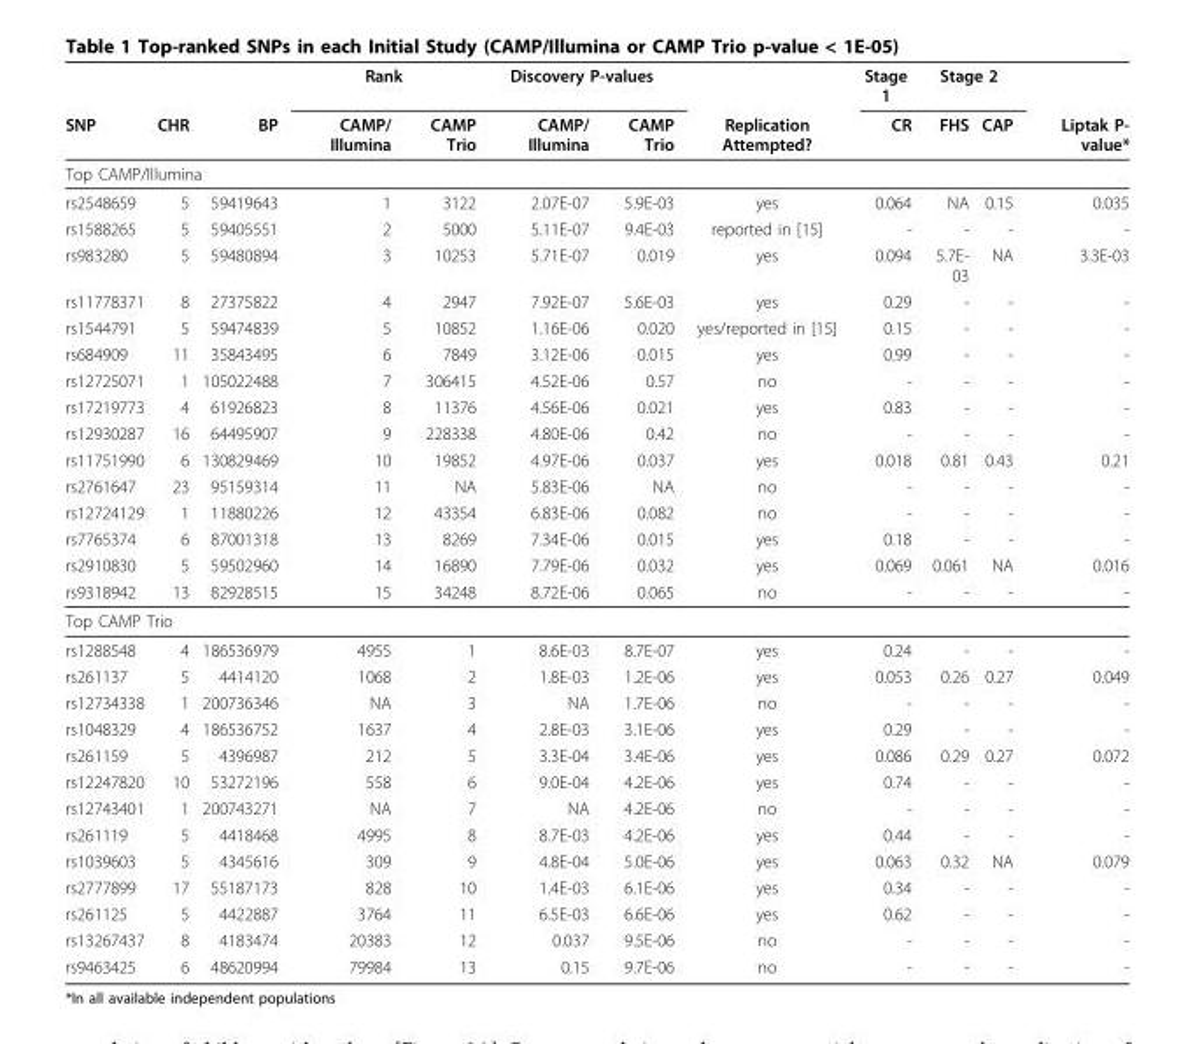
<table><thead><tr><td rowspan="2">SNP</td><td rowspan="2">CHR</td><td rowspan="2">BP</td><td colspan="2">Rank</td><td colspan="2">Discovery P-values</td><td rowspan="2">Replication Attempted?</td><td rowspan="2">Stage 1 CR</td><td colspan="2">Stage 2</td><td rowspan="2">Liptak P- value*</td></tr><tr><td>CAMP/ Illumina</td><td>CAMP Trio</td><td>CAMP/ Illumina</td><td>CAMP Trio</td><td>FHS</td><td>CAP</td></tr></thead><tbody><tr><td colspan="12">Top CAMP/Illumina</td></tr><tr><td>rs2548659</td><td>5</td><td>59419643</td><td>1</td><td>3122</td><td>2.07E-07</td><td>5.9E-03</td><td>yes</td><td>0.064</td><td>NA</td><td>0.15</td><td>0.035</td></tr><tr><td>rs1588265</td><td>5</td><td>59405551</td><td>2</td><td>5000</td><td>5.11E-07</td><td>9.4E-03</td><td>reported in [15]</td><td>-</td><td>-</td><td>-</td><td>-</td></tr><tr><td>rs983280</td><td>5</td><td>59480894</td><td>3</td><td>10253</td><td>5.71E-07</td><td>0.019</td><td>yes</td><td>0.094</td><td>5.7E- 03</td><td>NA</td><td>3.3E-03</td></tr><tr><td>rs11778371</td><td>8</td><td>27375822</td><td>4</td><td>2947</td><td>7.92E-07</td><td>5.6E-03</td><td>yes</td><td>0.29</td><td>-</td><td>-</td><td>-</td></tr><tr><td>rs1544791</td><td>5</td><td>59474839</td><td>5</td><td>10852</td><td>1.16E-06</td><td>0.020</td><td>yes/reported in [15]</td><td>0.15</td><td>-</td><td>-</td><td>-</td></tr><tr><td>rs684909</td><td>11</td><td>35843495</td><td>6</td><td>7849</td><td>3.12E-06</td><td>0.015</td><td>yes</td><td>0.99</td><td>-</td><td>-</td><td>-</td></tr><tr><td>rs12725071</td><td>1</td><td>105022488</td><td>7</td><td>306415</td><td>4.52E-06</td><td>0.57</td><td>no</td><td>-</td><td>-</td><td>-</td><td>-</td></tr><tr><td>rs17219773</td><td>4</td><td>61926823</td><td>8</td><td>11376</td><td>4.56E-06</td><td>0.021</td><td>yes</td><td>0.83</td><td>-</td><td>-</td><td>-</td></tr><tr><td>rs12930287</td><td>16</td><td>64495907</td><td>9</td><td>228338</td><td>4.80E-06</td><td>0.42</td><td>no</td><td>-</td><td>-</td><td>-</td><td>-</td></tr><tr><td>rs11751990</td><td>6</td><td>130829469</td><td>10</td><td>19852</td><td>4.97E-06</td><td>0.037</td><td>yes</td><td>0.018</td><td>0.81</td><td>0.43</td><td>0.21</td></tr><tr><td>rs2761647</td><td>23</td><td>95159314</td><td>11</td><td>NA</td><td>5.83E-06</td><td>NA</td><td>no</td><td>-</td><td>-</td><td>-</td><td>-</td></tr><tr><td>rs12724129</td><td>1</td><td>11880226</td><td>12</td><td>43354</td><td>6.83E-06</td><td>0.082</td><td>no</td><td>-</td><td>-</td><td>-</td><td>-</td></tr><tr><td>rs7765374</td><td>6</td><td>87001318</td><td>13</td><td>8269</td><td>7.34E-06</td><td>0.015</td><td>yes</td><td>0.18</td><td>-</td><td>-</td><td>-</td></tr><tr><td>rs2910830</td><td>5</td><td>59502960</td><td>14</td><td>16890</td><td>7.79E-06</td><td>0.032</td><td>yes</td><td>0.069</td><td>0.061</td><td>NA</td><td>0.016</td></tr><tr><td>rs9318942</td><td>13</td><td>82928515</td><td>15</td><td>34248</td><td>8.72E-06</td><td>0.065</td><td>no</td><td>-</td><td>-</td><td>-</td><td>-</td></tr><tr><td colspan="12">Top CAMP Trio</td></tr><tr><td>rs1288548</td><td>4</td><td>186536979</td><td>4955</td><td>1</td><td>8.6E-03</td><td>8.7E-07</td><td>yes</td><td>0.24</td><td>-</td><td>-</td><td>-</td></tr><tr><td>rs261137</td><td>5</td><td>4414120</td><td>1068</td><td>2</td><td>1.8E-03</td><td>1.2E-06</td><td>yes</td><td>0.053</td><td>0.26</td><td>0.27</td><td>0.049</td></tr><tr><td>rs12734338</td><td>1</td><td>200736346</td><td>NA</td><td>3</td><td>NA</td><td>1.7E-06</td><td>no</td><td>-</td><td>-</td><td>-</td><td>-</td></tr><tr><td>rs1048329</td><td>4</td><td>186536752</td><td>1637</td><td>4</td><td>2.8E-03</td><td>3.1E-06</td><td>yes</td><td>0.29</td><td>-</td><td>-</td><td>-</td></tr><tr><td>rs261159</td><td>5</td><td>4396987</td><td>212</td><td>5</td><td>3.3E-04</td><td>3.4E-06</td><td>yes</td><td>0.086</td><td>0.29</td><td>0.27</td><td>0.072</td></tr><tr><td>rs12247820</td><td>10</td><td>53272196</td><td>558</td><td>6</td><td>9.0E-04</td><td>4.2E-06</td><td>yes</td><td>0.74</td><td>-</td><td>-</td><td>-</td></tr><tr><td>rs12743401</td><td>1</td><td>200743271</td><td>NA</td><td>7</td><td>NA</td><td>4.2E-06</td><td>no</td><td>-</td><td>-</td><td>-</td><td>-</td></tr><tr><td>rs261119</td><td>5</td><td>4418468</td><td>4995</td><td>8</td><td>8.7E-03</td><td>4.2E-06</td><td>yes</td><td>0.44</td><td>-</td><td>-</td><td>-</td></tr><tr><td>rs1039603</td><td>5</td><td>4345616</td><td>309</td><td>9</td><td>4.8E-04</td><td>5.0E-06</td><td>yes</td><td>0.063</td><td>0.32</td><td>NA</td><td>0.079</td></tr><tr><td>rs2777899</td><td>17</td><td>55187173</td><td>828</td><td>10</td><td>1.4E-03</td><td>6.1E-06</td><td>yes</td><td>0.34</td><td>-</td><td>-</td><td>-</td></tr><tr><td>rs261125</td><td>5</td><td>4422887</td><td>3764</td><td>11</td><td>6.5E-03</td><td>6.6E-06</td><td>yes</td><td>0.62</td><td>-</td><td>-</td><td>-</td></tr><tr><td>rs13267437</td><td>8</td><td>4183474</td><td>20383</td><td>12</td><td>0.037</td><td>9.5E-06</td><td>no</td><td>-</td><td>-</td><td>-</td><td>-</td></tr><tr><td>rs9463425</td><td>6</td><td>48620994</td><td>79984</td><td>13</td><td>0.15</td><td>9.7E-06</td><td>no</td><td>-</td><td>-</td><td>-</td><td>-</td></tr></tbody></table>